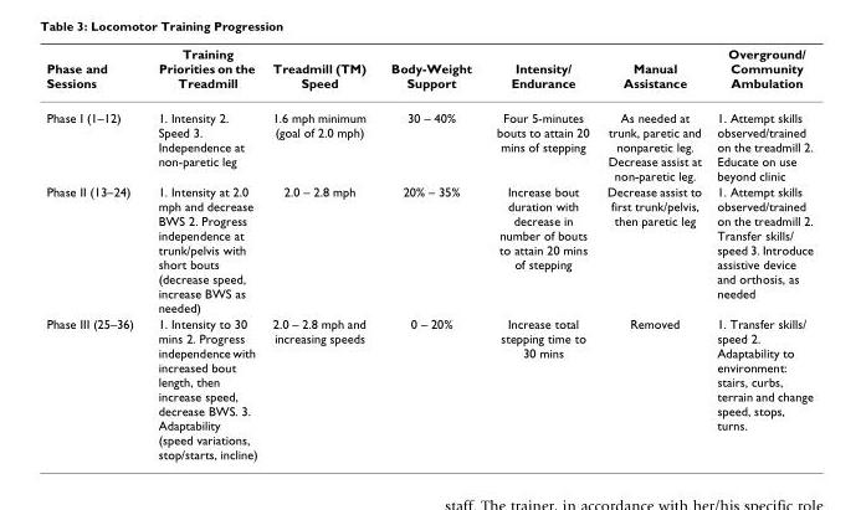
<table><thead><tr><td>Phase and Sessions</td><td>Training Priorities on the Treadmill</td><td>Treadmill (TM) Speed</td><td>Body-Weight Support</td><td>Intensity/ Endurance</td><td>Manual Assistance</td><td>Overground/ Community Ambulation</td></tr></thead><tbody><tr><td>Phase I (1–12)</td><td>1. Intensity 2. Speed 3. Independence at non-paretic leg</td><td>1.6 mph minimum (goal of 2.0 mph)</td><td>30 – 40%</td><td>Four 5-minutes bouts to attain 20 mins of stepping</td><td>As needed at trunk, paretic and nonparetic leg. Decrease assist at non-paretic leg.</td><td>1. Attempt skills observed/trained on the treadmill 2. Educate on use beyond clinic</td></tr><tr><td>Phase II (13–24)</td><td>1. Intensity at 2.0 mph and decrease BWS 2. Progress independence at trunk/pelvis with short bouts (decrease speed, increase BWS as needed)</td><td>2.0 – 2.8 mph</td><td>20% – 35%</td><td>Increase bout duration with decrease in number of bouts to attain 20 mins of stepping</td><td>Decrease assist to first trunk/pelvis, then paretic leg</td><td>1. Attempt skills observed/trained on the treadmill 2. Transfer skills/ speed 3. Introduce assistive device and orthosis, as needed</td></tr><tr><td>Phase III (25–36)</td><td>1. Intensity to 30 mins 2. Progress independence with increased bout length, then increase speed, decrease BWS. 3. Adaptability (speed variations, stop/starts, incline)</td><td>2.0 – 2.8 mph and increasing speeds</td><td>0 – 20%</td><td>Increase total stepping time to 30 mins</td><td>Removed</td><td>1. Transfer skills/ speed 2. Adaptability to environment: stairs, curbs, terrain and change speed, stops, turns.</td></tr></tbody></table>